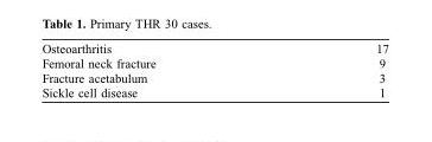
<table><tbody><tr><td>Osteoarthritis</td><td>17</td></tr><tr><td>Femoral neck fracture</td><td>9</td></tr><tr><td>Fracture acetabulum</td><td>3</td></tr><tr><td>Sickle cell disease</td><td>1</td></tr></tbody></table>